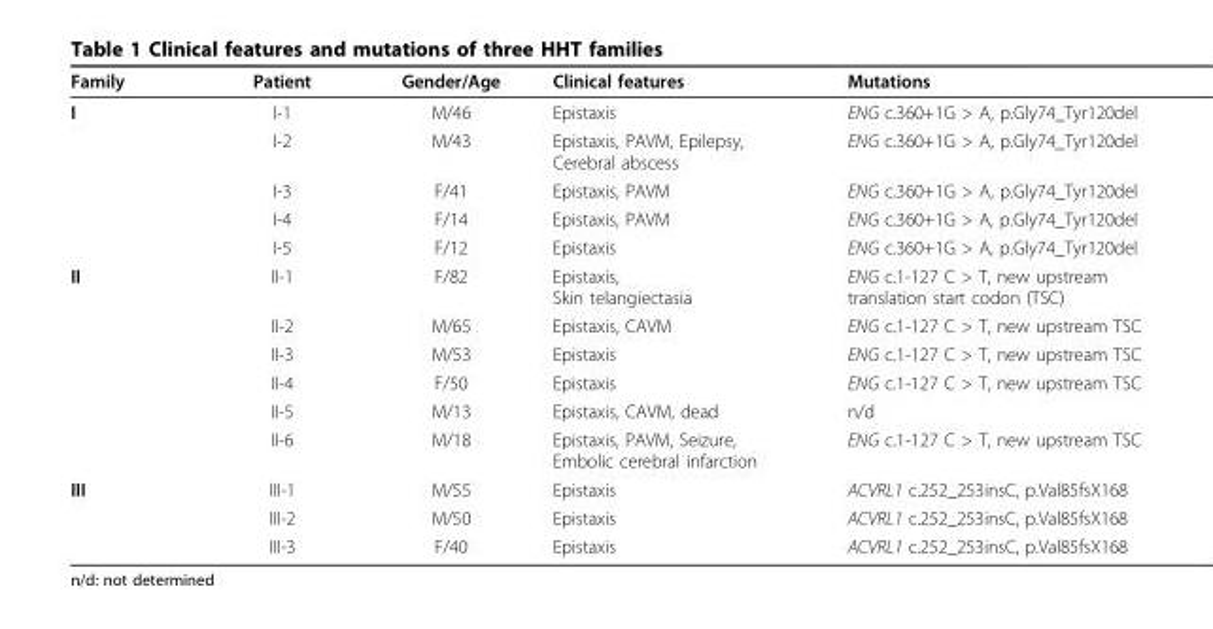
<table><thead><tr><td>Family</td><td>Patient</td><td>Gender/Age</td><td>Clinical features</td><td>Mutations</td></tr></thead><tbody><tr><td rowspan="5">I</td><td>I-1</td><td>M/46</td><td>Epistaxis</td><td>ENG c.360+1G &gt; A, p.Gly74_Tyr120del</td></tr><tr><td>I-2</td><td>M/43</td><td>Epistaxis, PAVM, Epilepsy, Cerebral abscess</td><td>ENG c.360+1G &gt; A, p.Gly74_Tyr120del</td></tr><tr><td>I-3</td><td>F/41</td><td>Epistaxis, PAVM</td><td>ENG c.360+1G &gt; A, p.Gly74_Tyr120del</td></tr><tr><td>I-4</td><td>F/14</td><td>Epistaxis, PAVM</td><td>ENG c.360+1G &gt; A, p.Gly74_Tyr120del</td></tr><tr><td>I-5</td><td>F/12</td><td>Epistaxis</td><td>ENG c.360+1G &gt; A, p.Gly74_Tyr120del</td></tr><tr><td rowspan="6">II</td><td>II-1</td><td>F/82</td><td>Epistaxis, Skin telangiectasia</td><td>ENG c.1-127 C &gt; T, new upstream translation start codon (TSC)</td></tr><tr><td>II-2</td><td>M/65</td><td>Epistaxis, CAVM</td><td>ENG c.1-127 C &gt; T, new upstream TSC</td></tr><tr><td>II-3</td><td>M/53</td><td>Epistaxis</td><td>ENG c.1-127 C &gt; T, new upstream TSC</td></tr><tr><td>II-4</td><td>F/50</td><td>Epistaxis</td><td>ENG c.1-127 C &gt; T, new upstream TSC</td></tr><tr><td>II-5</td><td>M/13</td><td>Epistaxis, CAVM, dead</td><td>n/d</td></tr><tr><td>II-6</td><td>M/18</td><td>Epistaxis, PAVM, Seizure, Embolic cerebral infarction</td><td>ENG c.1-127 C &gt; T, new upstream TSC</td></tr><tr><td rowspan="3">III</td><td>III-1</td><td>M/55</td><td>Epistaxis</td><td>ACVRL1 c.252_253insC, p.Val85fsX168</td></tr><tr><td>III-2</td><td>M/50</td><td>Epistaxis</td><td>ACVRL1 c.252_253insC, p.Val85fsX168</td></tr><tr><td>III-3</td><td>F/40</td><td>Epistaxis</td><td>ACVRL1 c.252_253insC, p.Val85fsX168</td></tr></tbody></table>